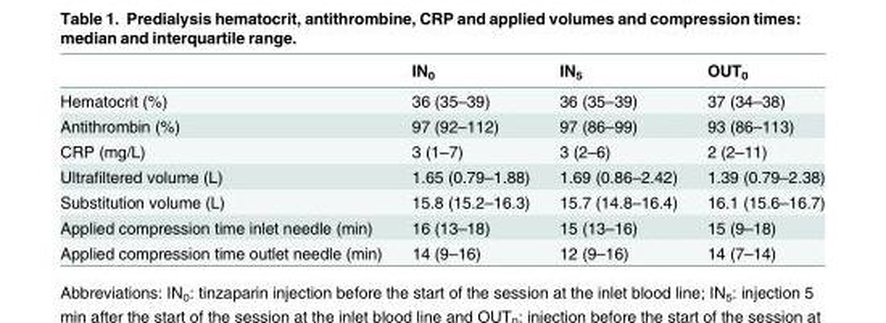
<table><thead><tr><td></td><td>IN<sub>0</sub></td><td>IN<sub>5</sub></td><td>OUT<sub>0</sub></td></tr></thead><tbody><tr><td>Hematocrit (%)</td><td>36 (35–39)</td><td>36 (35–39)</td><td>37 (34–38)</td></tr><tr><td>Antithrombin (%)</td><td>97 (92–112)</td><td>97 (86–99)</td><td>93 (86–113)</td></tr><tr><td>CRP (mg/L)</td><td>3 (1–7)</td><td>3 (2–6)</td><td>2 (2–11)</td></tr><tr><td>Ultrafiltered volume (L)</td><td>1.65 (0.79–1.88)</td><td>1.69 (0.86–2.42)</td><td>1.39 (0.79–2.38)</td></tr><tr><td>Substitution volume (L)</td><td>15.8 (15.2–16.3)</td><td>15.7 (14.8–16.4)</td><td>16.1 (15.6–16.7)</td></tr><tr><td>Applied compression time inlet needle (min)</td><td>16 (13–18)</td><td>15 (13–16)</td><td>15 (9–18)</td></tr><tr><td>Applied compression time outlet needle (min)</td><td>14 (9–16)</td><td>12 (9–16)</td><td>14 (7–14)</td></tr></tbody></table>